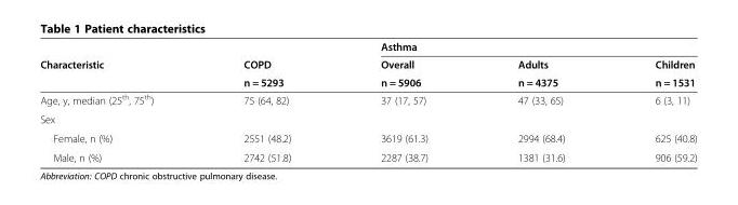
<table><thead><tr><td rowspan="3">Characteristic</td><td rowspan="3">COPD n = 5293</td><td colspan="3">Asthma</td></tr><tr><td rowspan="2">Overall n = 5906</td><td rowspan="2">Adults n = 4375</td><td rowspan="2">Children n = 1531</td></tr><tr></tr></thead><tbody><tr><td>Age, y, median (25<sup>th</sup>, 75<sup>th</sup>)</td><td>75 (64, 82)</td><td>37 (17, 57)</td><td>47 (33, 65)</td><td>6 (3, 11)</td></tr><tr><td colspan="5">Sex</td></tr><tr><td>Female, n (%)</td><td>2551 (48.2)</td><td>3619 (61.3)</td><td>2994 (68.4)</td><td>625 (40.8)</td></tr><tr><td>Male, n (%)</td><td>2742 (51.8)</td><td>2287 (38.7)</td><td>1381 (31.6)</td><td>906 (59.2)</td></tr></tbody></table>